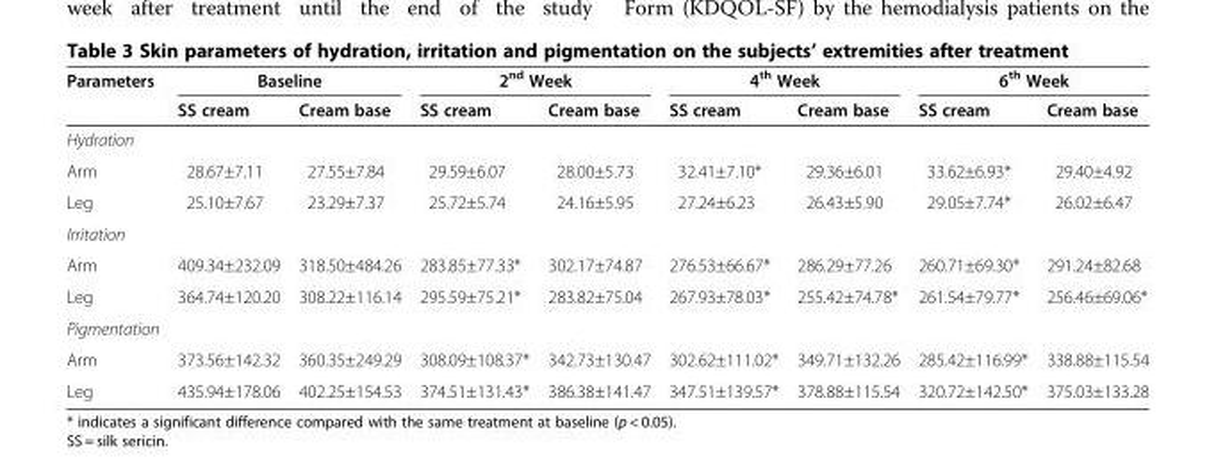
<table><thead><tr><td rowspan="2">Parameters</td><td colspan="2">Baseline</td><td colspan="2">2<sup>nd</sup> Week</td><td colspan="2">4<sup>th</sup> Week</td><td colspan="2">6<sup>th</sup> Week</td></tr><tr><td>SS cream</td><td>Cream base</td><td>SS cream</td><td>Cream base</td><td>SS cream</td><td>Cream base</td><td>SS cream</td><td>Cream base</td></tr></thead><tbody><tr><td colspan="9">Hydration</td></tr><tr><td>Arm</td><td>28.67±7.11</td><td>27.55±7.84</td><td>29.59±6.07</td><td>28.00±5.73</td><td>32.41±7.10*</td><td>29.36±6.01</td><td>33.62±6.93*</td><td>29.40±4.92</td></tr><tr><td>Leg</td><td>25.10±7.67</td><td>23.29±7.37</td><td>25.72±5.74</td><td>24.16±5.95</td><td>27.24±6.23</td><td>26.43±5.90</td><td>29.05±7.74*</td><td>26.02±6.47</td></tr><tr><td colspan="9">Irritation</td></tr><tr><td>Arm</td><td>409.34±232.09</td><td>318.50±484.26</td><td>283.85±77.33*</td><td>302.17±74.87</td><td>276.53±66.67*</td><td>286.29±77.26</td><td>260.71±69.30*</td><td>291.24±82.68</td></tr><tr><td>Leg</td><td>364.74±120.20</td><td>308.22±116.14</td><td>295.59±75.21*</td><td>283.82±75.04</td><td>267.93±78.03*</td><td>255.42±74.78*</td><td>261.54±79.77*</td><td>256.46±69.06*</td></tr><tr><td colspan="9">Pigmentation</td></tr><tr><td>Arm</td><td>373.56±142.32</td><td>360.35±249.29</td><td>308.09±108.37*</td><td>342.73±130.47</td><td>302.62±111.02*</td><td>349.71±132.26</td><td>285.42±116.99*</td><td>338.88±115.54</td></tr><tr><td>Leg</td><td>435.94±178.06</td><td>402.25±154.53</td><td>374.51±131.43*</td><td>386.38±141.47</td><td>347.51±139.57*</td><td>378.88±115.54</td><td>320.72±142.50*</td><td>375.03±133.28</td></tr></tbody></table>